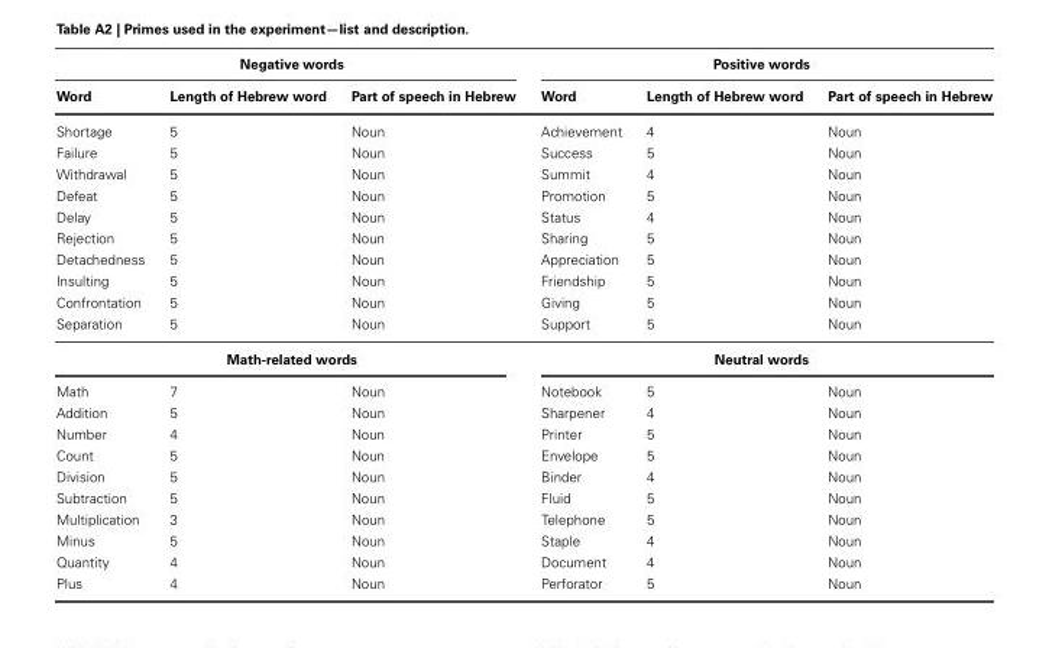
<table><thead><tr><td colspan="3">Negative words</td><td colspan="3">Positive words</td></tr><tr><td>Word</td><td>Length of Hebrew word</td><td>Part of speech in Hebrew</td><td>Word</td><td>Length of Hebrew word</td><td>Part of speech in Hebrew</td></tr></thead><tbody><tr><td>Shortage</td><td>5</td><td>Noun</td><td>Achievement</td><td>4</td><td>Noun</td></tr><tr><td>Failure</td><td>5</td><td>Noun</td><td>Success</td><td>5</td><td>Noun</td></tr><tr><td>Withdrawal</td><td>5</td><td>Noun</td><td>Summit</td><td>4</td><td>Noun</td></tr><tr><td>Defeat</td><td>5</td><td>Noun</td><td>Promotion</td><td>5</td><td>Noun</td></tr><tr><td>Delay</td><td>5</td><td>Noun</td><td>Status</td><td>4</td><td>Noun</td></tr><tr><td>Rejection</td><td>5</td><td>Noun</td><td>Sharing</td><td>5</td><td>Noun</td></tr><tr><td>Detachedness</td><td>5</td><td>Noun</td><td>Appreciation</td><td>5</td><td>Noun</td></tr><tr><td>Insulting</td><td>5</td><td>Noun</td><td>Friendship</td><td>5</td><td>Noun</td></tr><tr><td>Confrontation</td><td>5</td><td>Noun</td><td>Giving</td><td>5</td><td>Noun</td></tr><tr><td>Separation</td><td>5</td><td>Noun</td><td>Support</td><td>5</td><td>Noun</td></tr><tr><td colspan="3">Math-related words</td><td colspan="3">Neutral words</td></tr><tr><td>Math</td><td>7</td><td>Noun</td><td>Notebook</td><td>5</td><td>Noun</td></tr><tr><td>Addition</td><td>5</td><td>Noun</td><td>Sharpener</td><td>4</td><td>Noun</td></tr><tr><td>Number</td><td>4</td><td>Noun</td><td>Printer</td><td>5</td><td>Noun</td></tr><tr><td>Count</td><td>5</td><td>Noun</td><td>Envelope</td><td>5</td><td>Noun</td></tr><tr><td>Division</td><td>5</td><td>Noun</td><td>Binder</td><td>4</td><td>Noun</td></tr><tr><td>Subtraction</td><td>5</td><td>Noun</td><td>Fluid</td><td>5</td><td>Noun</td></tr><tr><td>Multiplication</td><td>3</td><td>Noun</td><td>Telephone</td><td>5</td><td>Noun</td></tr><tr><td>Minus</td><td>5</td><td>Noun</td><td>Staple</td><td>4</td><td>Noun</td></tr><tr><td>Quantity</td><td>4</td><td>Noun</td><td>Document</td><td>4</td><td>Noun</td></tr><tr><td>Plus</td><td>4</td><td>Noun</td><td>Perforator</td><td>5</td><td>Noun</td></tr></tbody></table>